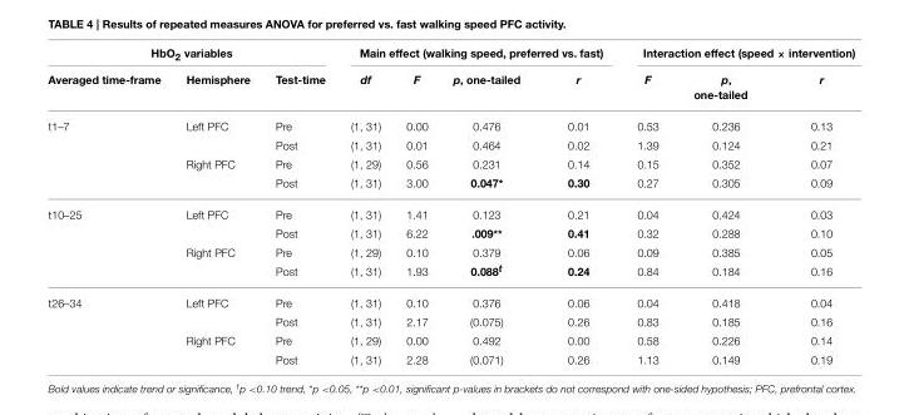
<table><thead><tr><td colspan="3">HbO<sub>2</sub> variables</td><td colspan="4">Main effect (walking speed, preferred vs. fast)</td><td colspan="3">Interaction effect (speed × intervention)</td></tr><tr><td>Averaged time-frame</td><td>Hemisphere</td><td>Test-time</td><td>df</td><td>F</td><td>p, one-tailed</td><td>r</td><td>F</td><td>p, one-tailed</td><td>r</td></tr></thead><tbody><tr><td rowspan="4">t1–7</td><td>Left PFC</td><td>Pre</td><td>(1, 31)</td><td>0.00</td><td>0.476</td><td>0.01</td><td>0.53</td><td>0.236</td><td>0.13</td></tr><tr><td></td><td>Post</td><td>(1, 31)</td><td>0.01</td><td>0.464</td><td>0.02</td><td>1.39</td><td>0.124</td><td>0.21</td></tr><tr><td>Right PFC</td><td>Pre</td><td>(1, 29)</td><td>0.56</td><td>0.231</td><td>0.14</td><td>0.15</td><td>0.352</td><td>0.07</td></tr><tr><td></td><td>Post</td><td>(1, 31)</td><td>3.00</td><td>0.047*</td><td>0.30</td><td>0.27</td><td>0.305</td><td>0.09</td></tr><tr><td rowspan="4">t10–25</td><td>Left PFC</td><td>Pre</td><td>(1, 31)</td><td>1.41</td><td>0.123</td><td>0.21</td><td>0.04</td><td>0.424</td><td>0.03</td></tr><tr><td></td><td>Post</td><td>(1, 31)</td><td>6.22</td><td>.009**</td><td>0.41</td><td>0.32</td><td>0.288</td><td>0.10</td></tr><tr><td>Right PFC</td><td>Pre</td><td>(1, 29)</td><td>0.10</td><td>0.379</td><td>0.06</td><td>0.09</td><td>0.385</td><td>0.05</td></tr><tr><td></td><td>Post</td><td>(1, 31)</td><td>1.93</td><td>0.088<sup>t</sup></td><td>0.24</td><td>0.84</td><td>0.184</td><td>0.16</td></tr><tr><td rowspan="4">t26–34</td><td>Left PFC</td><td>Pre</td><td>(1, 31)</td><td>0.10</td><td>0.376</td><td>0.06</td><td>0.04</td><td>0.418</td><td>0.04</td></tr><tr><td></td><td>Post</td><td>(1, 31)</td><td>2.17</td><td>(0.075)</td><td>0.26</td><td>0.83</td><td>0.185</td><td>0.16</td></tr><tr><td>Right PFC</td><td>Pre</td><td>(1, 29)</td><td>0.00</td><td>0.492</td><td>0.00</td><td>0.58</td><td>0.226</td><td>0.14</td></tr><tr><td></td><td>Post</td><td>(1, 31)</td><td>2.28</td><td>(0.071)</td><td>0.26</td><td>1.13</td><td>0.149</td><td>0.19</td></tr></tbody></table>